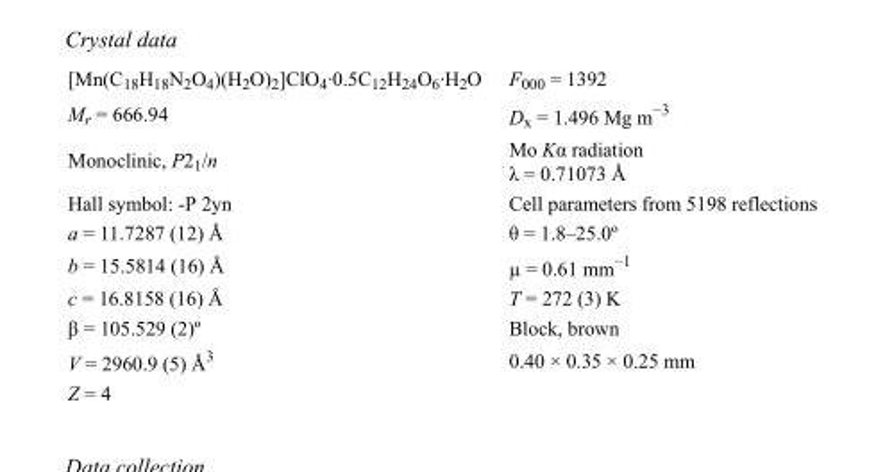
<table><tbody><tr><td>[Mn(C<sub>18</sub>H<sub>18</sub>N<sub>2</sub>O<sub>4</sub>)(H<sub>2</sub>O)<sub>2</sub>]ClO<sub>4</sub>·0.5C<sub>12</sub>H<sub>24</sub>O<sub>6</sub>·H<sub>2</sub>O</td><td>F000 = 1392</td></tr><tr><td>M<sub>r</sub> = 666.94</td><td>D<sub>x</sub> = 1.496 Mg m<sup>−3</sup></td></tr><tr><td>Monoclinic, P2<sub>1</sub>/n</td><td>Mo Kα radiation λ = 0.71073 Å</td></tr><tr><td>Hall symbol: -P 2yn</td><td>Cell parameters from 5198 reflections</td></tr><tr><td>a = 11.7287 (12) Å</td><td>θ = 1.8–25.0º</td></tr><tr><td>b = 15.5814 (16) Å</td><td>µ = 0.61 mm<sup>−1</sup></td></tr><tr><td>c = 16.8158 (16) Å</td><td>T = 272 (3) K</td></tr><tr><td>β = 105.529 (2)º</td><td>Block, brown</td></tr><tr><td>V = 2960.9 (5) Å<sup>3</sup></td><td>0.40 × 0.35 × 0.25 mm</td></tr><tr><td>Z = 4</td><td></td></tr></tbody></table>